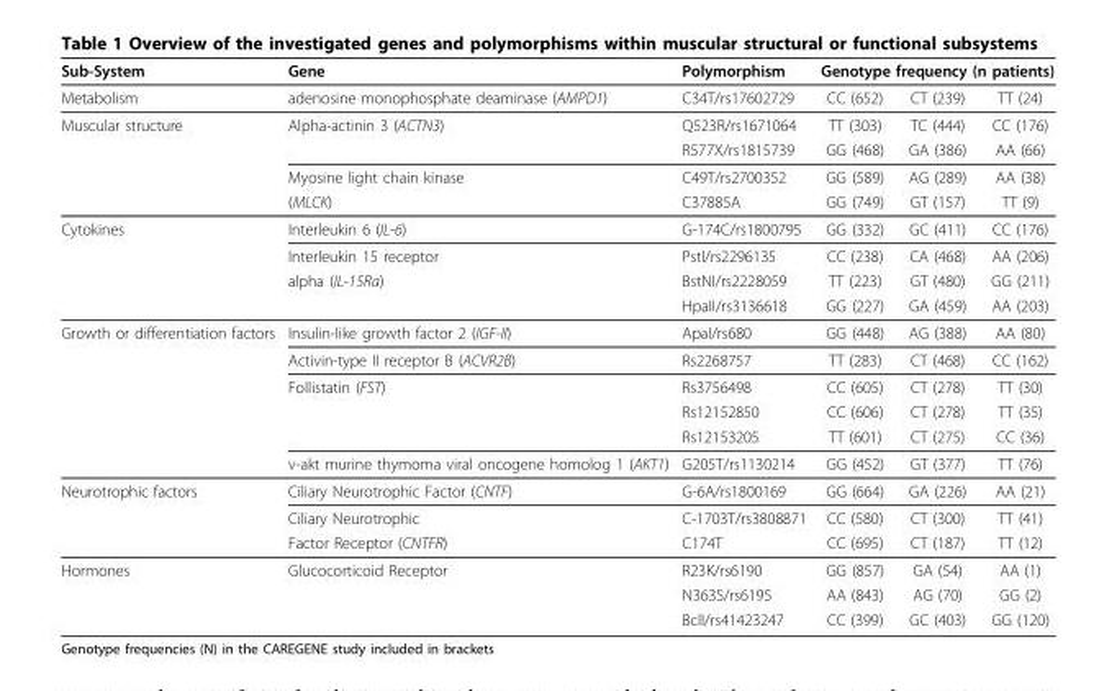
<table><thead><tr><td rowspan="2">Sub-System Metabolism</td><td rowspan="2">Gene adenosine monophosphate deaminase (AMPD1)</td><td rowspan="2">Polymorphism C34T/rs17602729</td><td colspan="3">Genotype frequency (n patients)</td></tr><tr><td>CC (652)</td><td>CT (239)</td><td>TT (24)</td></tr></thead><tbody><tr><td rowspan="4">Muscular structure</td><td>Alpha-actinin 3 (ACTN3)</td><td>Q523R/rs1671064</td><td>TT (303)</td><td>TC (444)</td><td>CC (176)</td></tr><tr><td></td><td>R577X/rs1815739</td><td>GG (468)</td><td>GA (386)</td><td>AA (66)</td></tr><tr><td>Myosine light chain kinase</td><td>C49T/rs2700352</td><td>GG (589)</td><td>AG (289)</td><td>AA (38)</td></tr><tr><td>(MLCK)</td><td>C37885A</td><td>GG (749)</td><td>GT (157)</td><td>TT (9)</td></tr><tr><td rowspan="4">Cytokines</td><td>Interleukin 6 (IL-6)</td><td>G-174C/rs1800795</td><td>GG (332)</td><td>GC (411)</td><td>CC (176)</td></tr><tr><td>Interleukin 15 receptor</td><td>PstI/rs2296135</td><td>CC (238)</td><td>CA (468)</td><td>AA (206)</td></tr><tr><td>alpha (IL-15Ra)</td><td>BstNI/rs2228059</td><td>TT (223)</td><td>GT (480)</td><td>GG (211)</td></tr><tr><td></td><td>HpaII/rs3136618</td><td>GG (227)</td><td>GA (459)</td><td>AA (203)</td></tr><tr><td rowspan="6">Growth or differentiation factors</td><td>Insulin-like growth factor 2 (IGF-II)</td><td>ApaI/rs680</td><td>GG (448)</td><td>AG (388)</td><td>AA (80)</td></tr><tr><td>Activin-type II receptor B (ACVR2B)</td><td>Rs2268757</td><td>TT (283)</td><td>CT (468)</td><td>CC (162)</td></tr><tr><td>Follistatin (FST)</td><td>Rs3756498</td><td>CC (605)</td><td>CT (278)</td><td>TT (30)</td></tr><tr><td></td><td>Rs12152850</td><td>CC (606)</td><td>CT (278)</td><td>TT (35)</td></tr><tr><td></td><td>Rs12153205</td><td>TT (601)</td><td>CT (275)</td><td>CC (36)</td></tr><tr><td>v-akt murine thymoma viral oncogene homolog 1 (AKT1)</td><td>G205T/rs1130214</td><td>GG (452)</td><td>GT (377)</td><td>TT (76)</td></tr><tr><td rowspan="3">Neurotrophic factors</td><td>Ciliary Neurotrophic Factor (CNTF)</td><td>G-6A/rs1800169</td><td>GG (664)</td><td>GA (226)</td><td>AA (21)</td></tr><tr><td>Ciliary Neurotrophic</td><td>C-1703T/rs3808871</td><td>CC (580)</td><td>CT (300)</td><td>TT (41)</td></tr><tr><td>Factor Receptor (CNTFR)</td><td>C174T</td><td>CC (695)</td><td>CT (187)</td><td>TT (12)</td></tr><tr><td rowspan="3">Hormones</td><td>Glucocorticoid Receptor</td><td>R23K/rs6190</td><td>GG (857)</td><td>GA (54)</td><td>AA (1)</td></tr><tr><td></td><td>N363S/rs6195</td><td>AA (843)</td><td>AG (70)</td><td>GG (2)</td></tr><tr><td></td><td>BclI/rs41423247</td><td>CC (399)</td><td>GC (403)</td><td>GG (120)</td></tr></tbody></table>